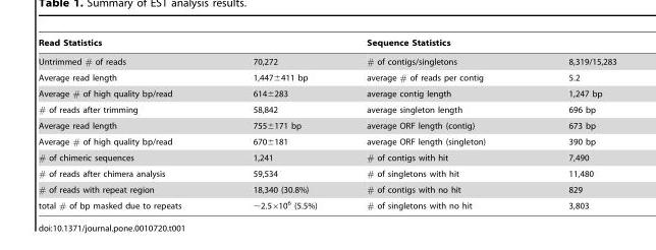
<table><thead><tr><td colspan="2">Read Statistics</td><td colspan="2">Sequence Statistics</td></tr><tr><td>Untrimmed # of reads</td><td>70,272</td><td># of contigs/singletons</td><td>8,319/15,283</td></tr></thead><tbody><tr><td>Average read length</td><td>1,447±411 bp</td><td>average # of reads per contig</td><td>5.2</td></tr><tr><td>Average # of high quality bp/read</td><td>614±283</td><td>average contig length</td><td>1,247 bp</td></tr><tr><td># of reads after trimming</td><td>58,842</td><td>average singleton length</td><td>696 bp</td></tr><tr><td>Average read length</td><td>755±171 bp</td><td>average ORF length (contig)</td><td>673 bp</td></tr><tr><td>Average # of high quality bp/read</td><td>670±181</td><td>average ORF length (singleton)</td><td>390 bp</td></tr><tr><td># of chimeric sequences</td><td>1,241</td><td># of contigs with hit</td><td>7,490</td></tr><tr><td># of reads after chimera analysis</td><td>59,534</td><td># of singletons with hit</td><td>11,480</td></tr><tr><td># of reads with repeat region</td><td>18,340 (30.8%)</td><td># of contigs with no hit</td><td>829</td></tr><tr><td>total # of bp masked due to repeats</td><td>∼2.5×10<sup>6</sup> (5.5%)</td><td># of singletons with no hit</td><td>3,803</td></tr></tbody></table>